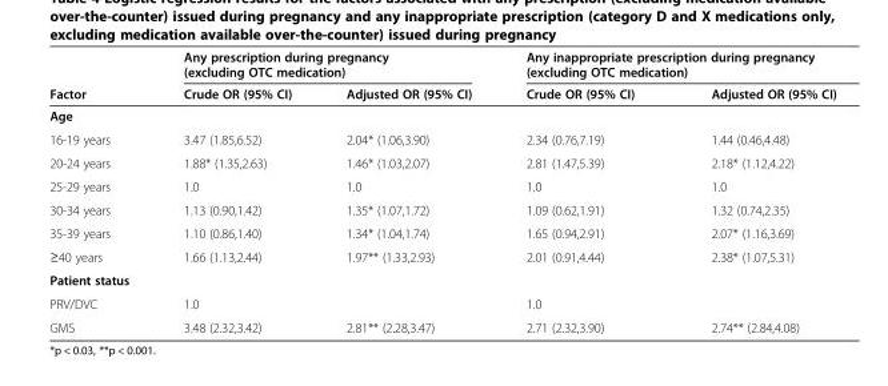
<table><thead><tr><td rowspan="2">Factor</td><td colspan="2">Any prescription during pregnancy (excluding OTC medication)</td><td colspan="2">Any inappropriate prescription during pregnancy (excluding OTC medication)</td></tr><tr><td>Crude OR (95% CI)</td><td>Adjusted OR (95% CI)</td><td>Crude OR (95% CI)</td><td>Adjusted OR (95% CI)</td></tr></thead><tbody><tr><td colspan="5">Age</td></tr><tr><td>16-19 years</td><td>3.47 (1.85,6.52)</td><td>2.04* (1.06,3.90)</td><td>2.34 (0.76,7.19)</td><td>1.44 (0.46,4.48)</td></tr><tr><td>20-24 years</td><td>1.88* (1.35,2.63)</td><td>1.46* (1.03,2.07)</td><td>2.81 (1.47,5.39)</td><td>2.18* (1.12,4.22)</td></tr><tr><td>25-29 years</td><td>1.0</td><td>1.0</td><td>1.0</td><td>1.0</td></tr><tr><td>30-34 years</td><td>1.13 (0.90,1.42)</td><td>1.35* (1.07,1.72)</td><td>1.09 (0.62,1.91)</td><td>1.32 (0.74,2.35)</td></tr><tr><td>35-39 years</td><td>1.10 (0.86,1.40)</td><td>1.34* (1.04,1.74)</td><td>1.65 (0.94,2.91)</td><td>2.07* (1.16,3.69)</td></tr><tr><td>≥40 years</td><td>1.66 (1.13,2.44)</td><td>1.97** (1.33,2.93)</td><td>2.01 (0.91,4.44)</td><td>2.38* (1.07,5.31)</td></tr><tr><td colspan="5">Patient status</td></tr><tr><td>PRV/DVC</td><td>1.0</td><td></td><td>1.0</td><td></td></tr><tr><td>GMS</td><td>3.48 (2.32,3.42)</td><td>2.81** (2.28,3.47)</td><td>2.71 (2.32,3.90)</td><td>2.74** (2.84,4.08)</td></tr></tbody></table>